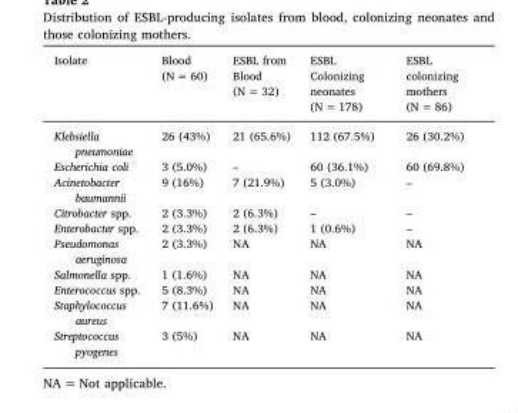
<table><thead><tr><td>Isolate</td><td>Blood (N = 60)</td><td>ESBL from Blood (N = 32)</td><td>ESBL Colonizing neonates (N = 178)</td><td>ESBL colonizing mothers (N = 86)</td></tr></thead><tbody><tr><td>Klebsiella pneumoniae</td><td>26 (43%)</td><td>21 (65.6%)</td><td>112 (67.5%)</td><td>26 (30.2%)</td></tr><tr><td>Escherichia coli</td><td>3 (5.0%)</td><td>–</td><td>60 (36.1%)</td><td>60 (69.8%)</td></tr><tr><td>Acinetobacter baumannii</td><td>9 (16%)</td><td>7 (21.9%)</td><td>5 (3.0%)</td><td>–</td></tr><tr><td>Citrobacter spp.</td><td>2 (3.3%)</td><td>2 (6.3%)</td><td>–</td><td>–</td></tr><tr><td>Enterobacter spp.</td><td>2 (3.3%)</td><td>2 (6.3%)</td><td>1 (0.6%)</td><td>–</td></tr><tr><td>Pseudomonas aeruginosa</td><td>2 (3.3%)</td><td>NA</td><td>NA</td><td>NA</td></tr><tr><td>Salmonella spp.</td><td>1 (1.6%)</td><td>NA</td><td>NA</td><td>NA</td></tr><tr><td>Enterococcus spp.</td><td>5 (8.3%)</td><td>NA</td><td>NA</td><td>NA</td></tr><tr><td>Staphylococcus aureus</td><td>7 (11.6%)</td><td>NA</td><td>NA</td><td>NA</td></tr><tr><td>Streptococcus pyogenes</td><td>3 (5%)</td><td>NA</td><td>NA</td><td>NA</td></tr></tbody></table>